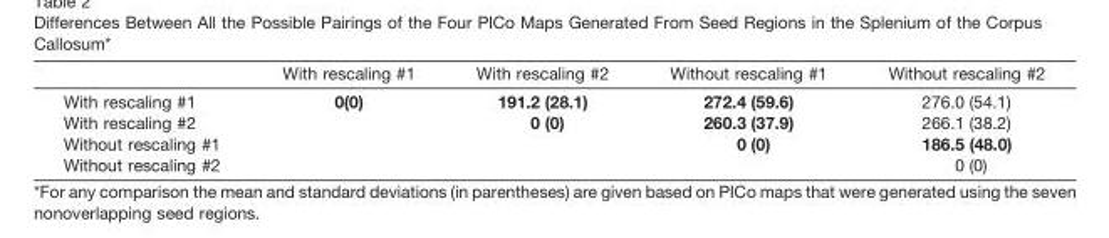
<table><thead><tr><td></td><td>With rescaling #1</td><td>With rescaling #2</td><td>Without rescaling #1</td><td>Without rescaling #2</td></tr></thead><tbody><tr><td>With rescaling #1</td><td>0(0)</td><td>191.2 (28.1)</td><td>272.4 (59.6)</td><td>276.0 (54.1)</td></tr><tr><td>With rescaling #2</td><td></td><td>0 (0)</td><td>260.3 (37.9)</td><td>266.1 (38.2)</td></tr><tr><td>Without rescaling #1</td><td></td><td></td><td>0 (0)</td><td>186.5 (48.0)</td></tr><tr><td>Without rescaling #2</td><td></td><td></td><td></td><td>0 (0)</td></tr></tbody></table>